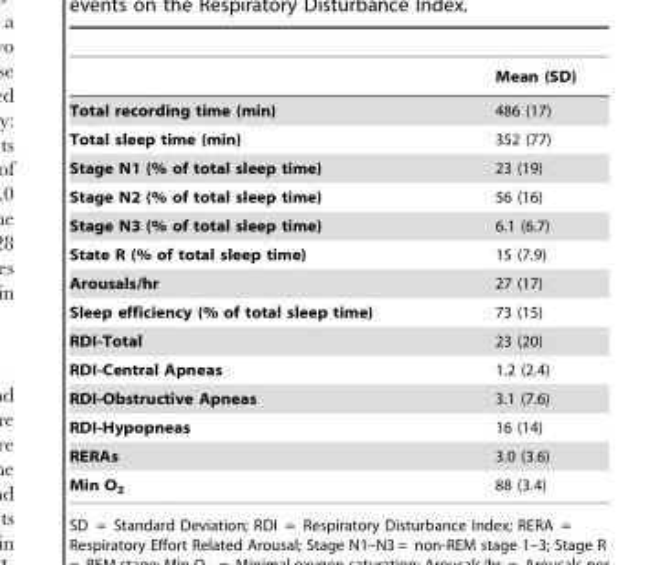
<table><thead><tr><td></td><td>Mean (SD)</td></tr></thead><tbody><tr><td>Total recording time (min)</td><td>486 (17)</td></tr><tr><td>Total sleep time (min)</td><td>352 (77)</td></tr><tr><td>Stage N1 (% of total sleep time)</td><td>23 (19)</td></tr><tr><td>Stage N2 (% of total sleep time)</td><td>56 (16)</td></tr><tr><td>Stage N3 (% of total sleep time)</td><td>6.1 (6.7)</td></tr><tr><td>State R (% of total sleep time)</td><td>15 (7.9)</td></tr><tr><td>Arousals/hr</td><td>27 (17)</td></tr><tr><td>Sleep efficiency (% of total sleep time)</td><td>73 (15)</td></tr><tr><td>RDI-Total</td><td>23 (20)</td></tr><tr><td>RDI-Central Apneas</td><td>1.2 (2.4)</td></tr><tr><td>RDI-Obstructive Apneas</td><td>3.1 (7.6)</td></tr><tr><td>RDI-Hypopneas</td><td>16 (14)</td></tr><tr><td>RERAs</td><td>3.0 (3.6)</td></tr><tr><td>Min O<sub>2</sub></td><td>88 (3.4)</td></tr></tbody></table>